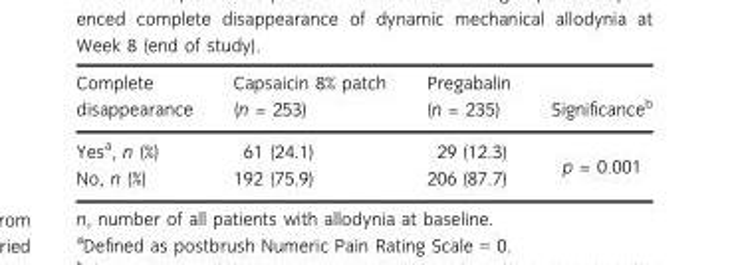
<table><thead><tr><td>Complete disappearance</td><td>Capsaicin 8% patch (n = 253)</td><td>Pregabalin (n = 235)</td><td>Significance<sup>b</sup></td></tr></thead><tbody><tr><td>Yes<sup>a</sup>, n (%)</td><td>61 (24.1)</td><td>29 (12.3)</td><td rowspan="2">p = 0.001</td></tr><tr><td>No, n (%)</td><td>192 (75.9)</td><td>206 (87.7)</td></tr></tbody></table>